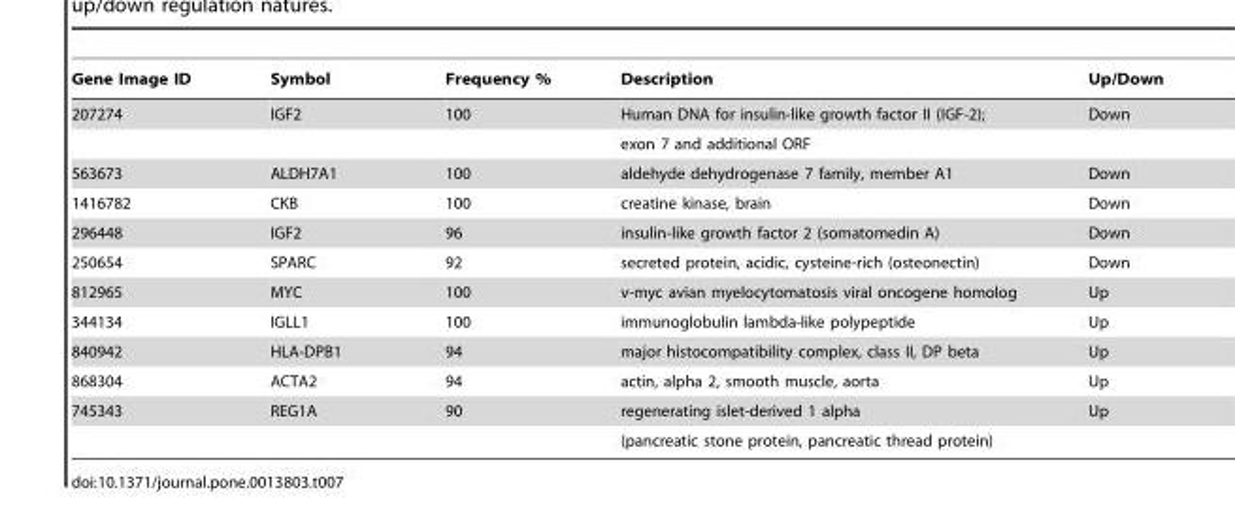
<table><thead><tr><td>Gene Image ID</td><td>Symbol</td><td>Frequency %</td><td>Description</td><td>Up/Down</td></tr></thead><tbody><tr><td rowspan="2">207274</td><td>IGF2</td><td>100</td><td>Human DNA for insulin-like growth factor II (IGF-2);</td><td>Down</td></tr><tr><td></td><td></td><td>exon 7 and additional ORF</td><td></td></tr><tr><td>563673</td><td>ALDH7A1</td><td>100</td><td>aldehyde dehydrogenase 7 family, member A1</td><td>Down</td></tr><tr><td>1416782</td><td>CKB</td><td>100</td><td>creatine kinase, brain</td><td>Down</td></tr><tr><td>296448</td><td>IGF2</td><td>96</td><td>insulin-like growth factor 2 (somatomedin A)</td><td>Down</td></tr><tr><td>250654</td><td>SPARC</td><td>92</td><td>secreted protein, acidic, cysteine-rich (osteonectin)</td><td>Down</td></tr><tr><td>812965</td><td>MYC</td><td>100</td><td>v-myc avian myelocytomatosis viral oncogene homolog</td><td>Up</td></tr><tr><td>344134</td><td>IGLL1</td><td>100</td><td>immunoglobulin lambda-like polypeptide</td><td>Up</td></tr><tr><td>840942</td><td>HLA-DPB1</td><td>94</td><td>major histocompatibility complex, class II, DP beta</td><td>Up</td></tr><tr><td>868304</td><td>ACTA2</td><td>94</td><td>actin, alpha 2, smooth muscle, aorta</td><td>Up</td></tr><tr><td rowspan="2">745343</td><td>REG1A</td><td>90</td><td>regenerating islet-derived 1 alpha</td><td>Up</td></tr><tr><td></td><td></td><td>(pancreatic stone protein, pancreatic thread protein)</td><td></td></tr></tbody></table>